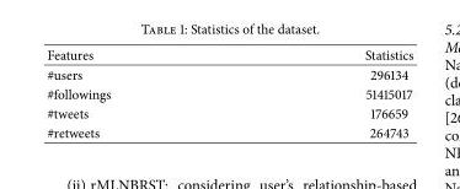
<table><thead><tr><td>Features</td><td>Statistics</td></tr></thead><tbody><tr><td>#users</td><td>296134</td></tr><tr><td>#followings</td><td>51415017</td></tr><tr><td>#tweets</td><td>176659</td></tr><tr><td>#retweets</td><td>264743</td></tr></tbody></table>